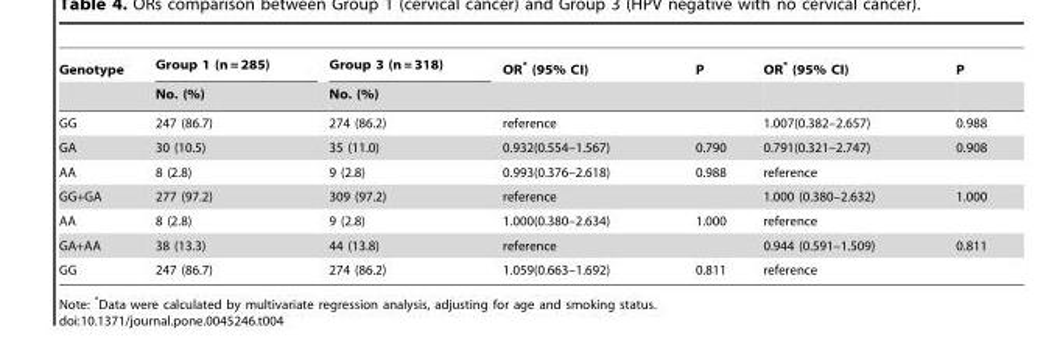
<table><thead><tr><td rowspan="2">Genotype</td><td rowspan="2">Group 1 (n = 285) No. (%)</td><td rowspan="2">Group 3 (n = 318) No. (%)</td><td rowspan="2">OR* (95% CI)</td><td rowspan="2">P</td><td rowspan="2">OR* (95% CI)</td><td rowspan="2">P</td></tr><tr></tr></thead><tbody><tr><td>GG</td><td>247 (86.7)</td><td>274 (86.2)</td><td>reference</td><td></td><td>1.007(0.382–2.657)</td><td>0.988</td></tr><tr><td>GA</td><td>30 (10.5)</td><td>35 (11.0)</td><td>0.932(0.554–1.567)</td><td>0.790</td><td>0.791(0.321–2.747)</td><td>0.908</td></tr><tr><td>AA</td><td>8 (2.8)</td><td>9 (2.8)</td><td>0.993(0.376–2.618)</td><td>0.988</td><td>reference</td><td></td></tr><tr><td>GG+GA</td><td>277 (97.2)</td><td>309 (97.2)</td><td>reference</td><td></td><td>1.000 (0.380–2.632)</td><td>1.000</td></tr><tr><td>AA</td><td>8 (2.8)</td><td>9 (2.8)</td><td>1.000(0.380–2.634)</td><td>1.000</td><td>reference</td><td></td></tr><tr><td>GA+AA</td><td>38 (13.3)</td><td>44 (13.8)</td><td>reference</td><td></td><td>0.944 (0.591–1.509)</td><td>0.811</td></tr><tr><td>GG</td><td>247 (86.7)</td><td>274 (86.2)</td><td>1.059(0.663–1.692)</td><td>0.811</td><td>reference</td><td></td></tr></tbody></table>